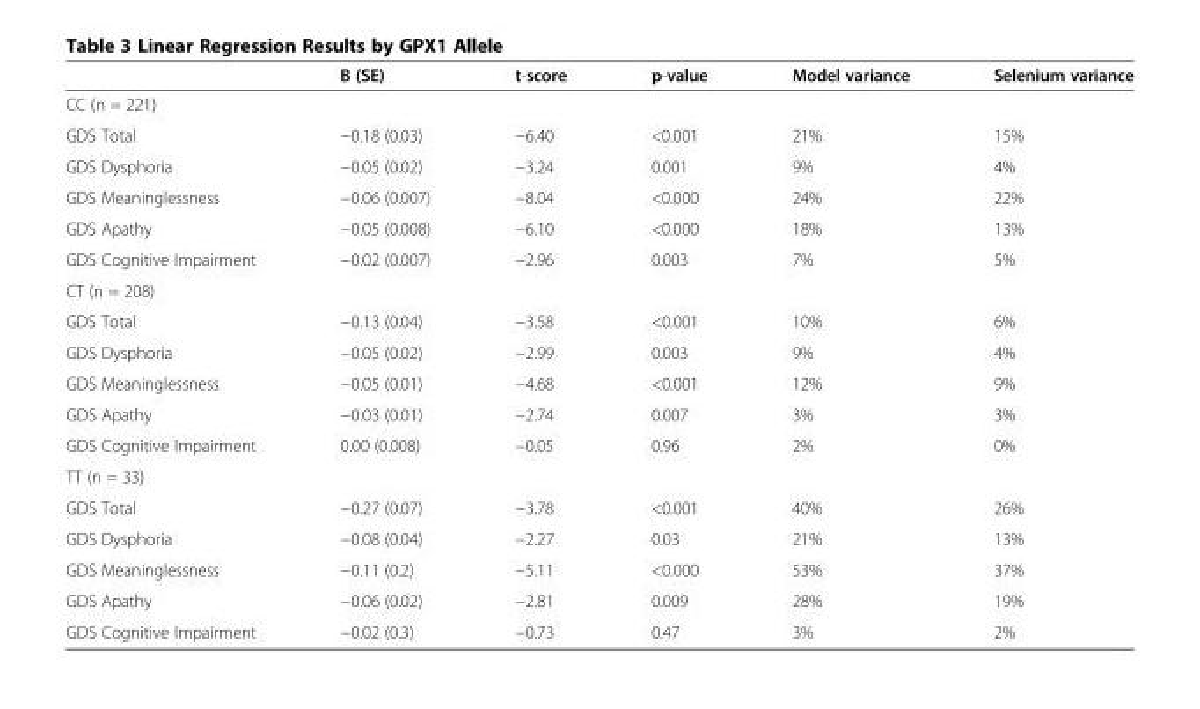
<table><thead><tr><td></td><td>B (SE)</td><td>t-score</td><td>p-value</td><td>Model variance</td><td>Selenium variance</td></tr></thead><tbody><tr><td colspan="6">CC (n = 221)</td></tr><tr><td>GDS Total</td><td>−0.18 (0.03)</td><td>−6.40</td><td>&lt;0.001</td><td>21%</td><td>15%</td></tr><tr><td>GDS Dysphoria</td><td>−0.05 (0.02)</td><td>−3.24</td><td>0.001</td><td>9%</td><td>4%</td></tr><tr><td>GDS Meaninglessness</td><td>−0.06 (0.007)</td><td>−8.04</td><td>&lt;0.000</td><td>24%</td><td>22%</td></tr><tr><td>GDS Apathy</td><td>−0.05 (0.008)</td><td>−6.10</td><td>&lt;0.000</td><td>18%</td><td>13%</td></tr><tr><td>GDS Cognitive Impairment</td><td>−0.02 (0.007)</td><td>−2.96</td><td>0.003</td><td>7%</td><td>5%</td></tr><tr><td colspan="6">CT (n = 208)</td></tr><tr><td>GDS Total</td><td>−0.13 (0.04)</td><td>−3.58</td><td>&lt;0.001</td><td>10%</td><td>6%</td></tr><tr><td>GDS Dysphoria</td><td>−0.05 (0.02)</td><td>−2.99</td><td>0.003</td><td>9%</td><td>4%</td></tr><tr><td>GDS Meaninglessness</td><td>−0.05 (0.01)</td><td>−4.68</td><td>&lt;0.001</td><td>12%</td><td>9%</td></tr><tr><td>GDS Apathy</td><td>−0.03 (0.01)</td><td>−2.74</td><td>0.007</td><td>3%</td><td>3%</td></tr><tr><td>GDS Cognitive Impairment</td><td>0.00 (0.008)</td><td>−0.05</td><td>0.96</td><td>2%</td><td>0%</td></tr><tr><td colspan="6">TT (n = 33)</td></tr><tr><td>GDS Total</td><td>−0.27 (0.07)</td><td>−3.78</td><td>&lt;0.001</td><td>40%</td><td>26%</td></tr><tr><td>GDS Dysphoria</td><td>−0.08 (0.04)</td><td>−2.27</td><td>0.03</td><td>21%</td><td>13%</td></tr><tr><td>GDS Meaninglessness</td><td>−0.11 (0.2)</td><td>−5.11</td><td>&lt;0.000</td><td>53%</td><td>37%</td></tr><tr><td>GDS Apathy</td><td>−0.06 (0.02)</td><td>−2.81</td><td>0.009</td><td>28%</td><td>19%</td></tr><tr><td>GDS Cognitive Impairment</td><td>−0.02 (0.3)</td><td>−0.73</td><td>0.47</td><td>3%</td><td>2%</td></tr></tbody></table>